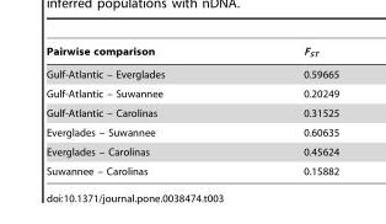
<table><thead><tr><td>Pairwise comparison</td><td>F<sub>ST</sub></td></tr></thead><tbody><tr><td>Gulf-Atlantic – Everglades</td><td>0.59665</td></tr><tr><td>Gulf-Atlantic – Suwannee</td><td>0.20249</td></tr><tr><td>Gulf-Atlantic – Carolinas</td><td>0.31525</td></tr><tr><td>Everglades – Suwannee</td><td>0.60635</td></tr><tr><td>Everglades – Carolinas</td><td>0.45624</td></tr><tr><td>Suwannee – Carolinas</td><td>0.15882</td></tr></tbody></table>